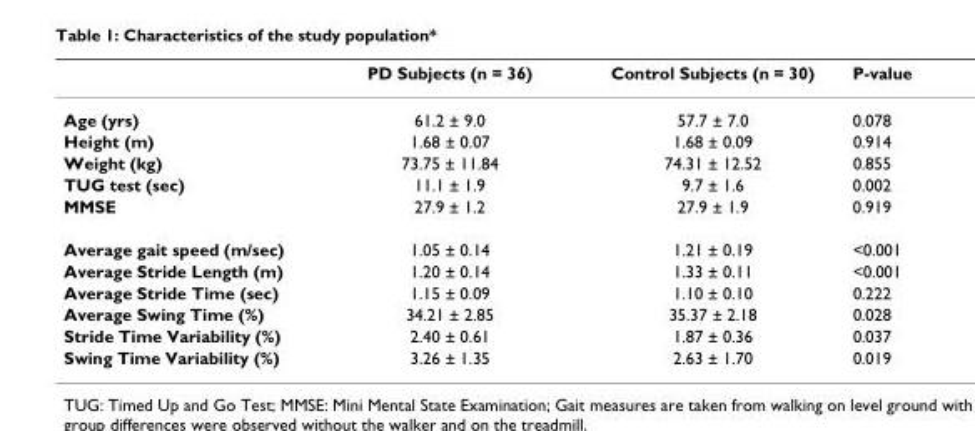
<table><thead><tr><td></td><td>PD Subjects (n = 36)</td><td>Control Subjects (n = 30)</td><td>P-value</td></tr></thead><tbody><tr><td>Age (yrs)</td><td>61.2 ± 9.0</td><td>57.7 ± 7.0</td><td>0.078</td></tr><tr><td>Height (m)</td><td>1.68 ± 0.07</td><td>1.68 ± 0.09</td><td>0.914</td></tr><tr><td>Weight (kg)</td><td>73.75 ± 11.84</td><td>74.31 ± 12.52</td><td>0.855</td></tr><tr><td>TUG test (sec)</td><td>11.1 ± 1.9</td><td>9.7 ± 1.6</td><td>0.002</td></tr><tr><td>MMSE</td><td>27.9 ± 1.2</td><td>27.9 ± 1.9</td><td>0.919</td></tr><tr><td>Average gait speed (m/sec)</td><td>1.05 ± 0.14</td><td>1.21 ± 0.19</td><td>&lt;0.001</td></tr><tr><td>Average Stride Length (m)</td><td>1.20 ± 0.14</td><td>1.33 ± 0.11</td><td>&lt;0.001</td></tr><tr><td>Average Stride Time (sec)</td><td>1.15 ± 0.09</td><td>1.10 ± 0.10</td><td>0.222</td></tr><tr><td>Average Swing Time (%)</td><td>34.21 ± 2.85</td><td>35.37 ± 2.18</td><td>0.028</td></tr><tr><td>Stride Time Variability (%)</td><td>2.40 ± 0.61</td><td>1.87 ± 0.36</td><td>0.037</td></tr><tr><td>Swing Time Variability (%)</td><td>3.26 ± 1.35</td><td>2.63 ± 1.70</td><td>0.019</td></tr></tbody></table>